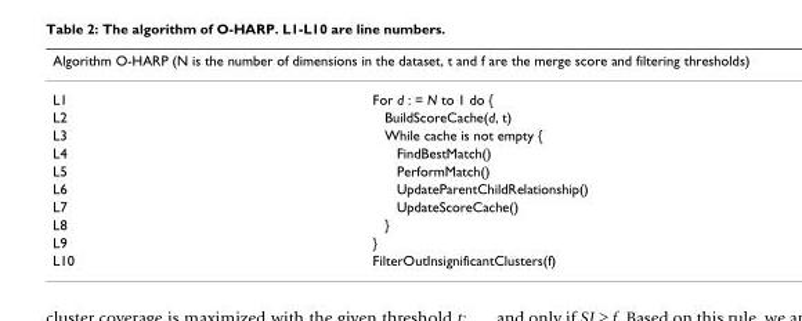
<table><thead><tr><td colspan="2">Algorithm O-HARP (N is the number of dimensions in the dataset, t and f are the merge score and filtering thresholds)</td></tr><tr><td>L1</td><td>For d : = N to 1 do {</td></tr></thead><tbody><tr><td>L2</td><td>BuildScoreCache(d, t)</td></tr><tr><td>L3</td><td>While cache is not empty {</td></tr><tr><td>L4</td><td>FindBestMatch()</td></tr><tr><td>L5</td><td>PerformMatch()</td></tr><tr><td>L6</td><td>UpdateParentChildRelationship()</td></tr><tr><td>L7</td><td>UpdateScoreCache()</td></tr><tr><td>L8</td><td>}</td></tr><tr><td>L9</td><td>}</td></tr><tr><td>L10</td><td>FilterOutInsignificantClusters(f)</td></tr></tbody></table>